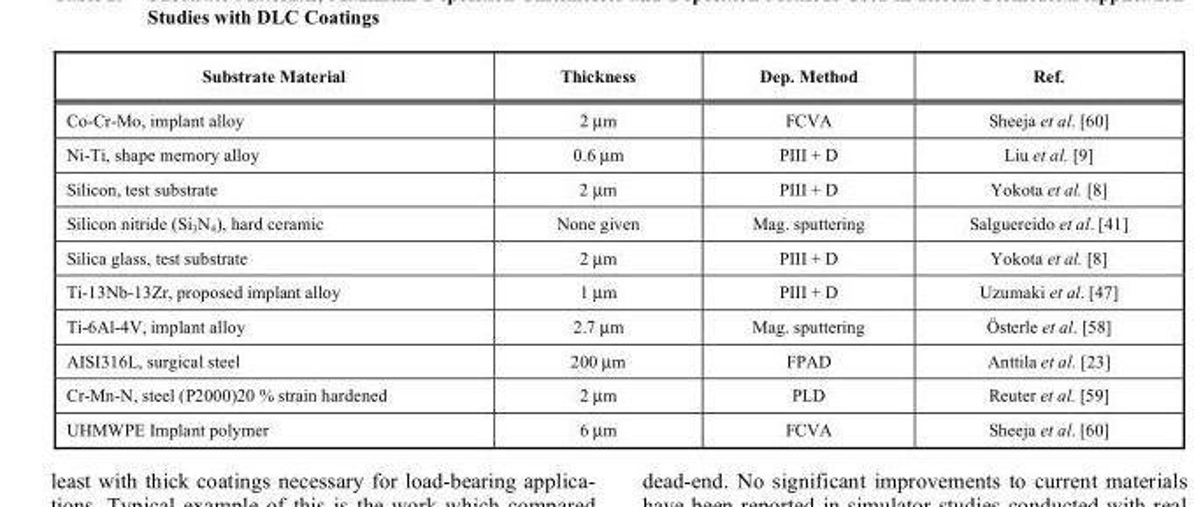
<table><thead><tr><td>Substrate Material</td><td>Thickness</td><td>Dep. Method</td><td>Ref.</td></tr></thead><tbody><tr><td>Co-Cr-Mo, implant alloy</td><td>2 μm</td><td>FCVA</td><td>Sheeja et al. [60]</td></tr><tr><td>Ni-Ti, shape memory alloy</td><td>0.6 μm</td><td>PIII + D</td><td>Liu et al. [9]</td></tr><tr><td>Silicon, test substrate</td><td>2 μm</td><td>PIII + D</td><td>Yokota et al. [8]</td></tr><tr><td>Silicon nitride (Si<sub>3</sub>N<sub>4</sub>), hard ceramic</td><td>None given</td><td>Mag. sputtering</td><td>Salguereido et al. [41]</td></tr><tr><td>Silica glass, test substrate</td><td>2 μm</td><td>PIII + D</td><td>Yokota et al. [8]</td></tr><tr><td>Ti-13Nb-13Zr, proposed implant alloy</td><td>1 μm</td><td>PIII + D</td><td>Uzumaki et al. [47]</td></tr><tr><td>Ti-6Al-4V, implant alloy</td><td>2.7 μm</td><td>Mag. sputtering</td><td>Österle et al. [58]</td></tr><tr><td>AISI316L, surgical steel</td><td>200 μm</td><td>FPAD</td><td>Anttila et al. [23]</td></tr><tr><td>Cr-Mn-N, steel (P2000)20 % strain hardened</td><td>2 μm</td><td>PLD</td><td>Reuter et al. [59]</td></tr><tr><td>UHMWPE Implant polymer</td><td>6 μm</td><td>FCVA</td><td>Sheeja et al. [60]</td></tr></tbody></table>